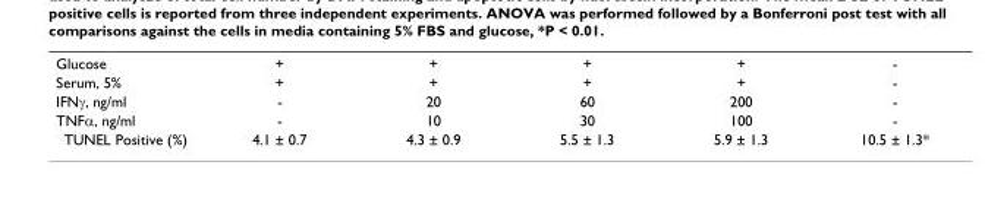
<table><tbody><tr><td>Glucose</td><td>+</td><td>+</td><td>+</td><td>+</td><td>-</td></tr><tr><td>Serum, 5%</td><td>+</td><td>+</td><td>+</td><td>+</td><td>-</td></tr><tr><td>IFNγ, ng/ml</td><td>-</td><td>20</td><td>60</td><td>200</td><td>-</td></tr><tr><td>TNFα, ng/ml</td><td>-</td><td>10</td><td>30</td><td>100</td><td>-</td></tr><tr><td>TUNEL Positive (%)</td><td>4.1 ± 0.7</td><td>4.3 ± 0.9</td><td>5.5 ± 1.3</td><td>5.9 ± 1.3</td><td>10.5 ± 1.3*</td></tr></tbody></table>